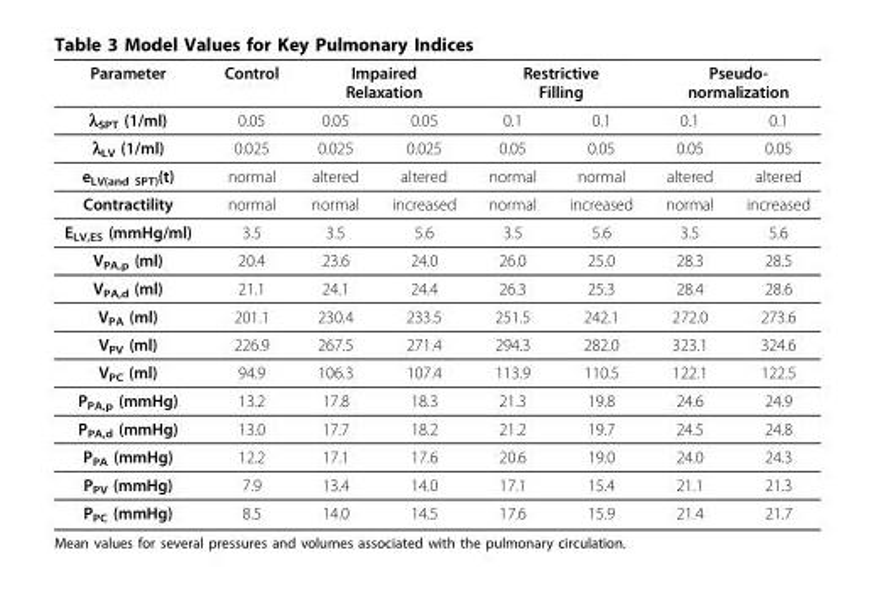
<table><thead><tr><td rowspan="2">Parameter λSPT (1/ml)</td><td rowspan="2">Control 0.05</td><td colspan="2">Impaired Relaxation</td><td colspan="2">Restrictive Filling</td><td colspan="2">Pseudo- normalization</td></tr><tr><td>0.05</td><td>0.05</td><td>0.1</td><td>0.1</td><td>0.1</td><td>0.1</td></tr></thead><tbody><tr><td>λLV (1/ml)</td><td>0.025</td><td>0.025</td><td>0.025</td><td>0.05</td><td>0.05</td><td>0.05</td><td>0.05</td></tr><tr><td>eLV(and SPT)(t)</td><td>normal</td><td>altered</td><td>altered</td><td>normal</td><td>normal</td><td>altered</td><td>altered</td></tr><tr><td>Contractility</td><td>normal</td><td>normal</td><td>increased</td><td>normal</td><td>increased</td><td>normal</td><td>increased</td></tr><tr><td>ELV,ES (mmHg/ml)</td><td>3.5</td><td>3.5</td><td>5.6</td><td>3.5</td><td>5.6</td><td>3.5</td><td>5.6</td></tr><tr><td>VPA,p (ml)</td><td>20.4</td><td>23.6</td><td>24.0</td><td>26.0</td><td>25.0</td><td>28.3</td><td>28.5</td></tr><tr><td>VPA,d (ml)</td><td>21.1</td><td>24.1</td><td>24.4</td><td>26.3</td><td>25.3</td><td>28.4</td><td>28.6</td></tr><tr><td>VPA (ml)</td><td>201.1</td><td>230.4</td><td>233.5</td><td>251.5</td><td>242.1</td><td>272.0</td><td>273.6</td></tr><tr><td>VPV (ml)</td><td>226.9</td><td>267.5</td><td>271.4</td><td>294.3</td><td>282.0</td><td>323.1</td><td>324.6</td></tr><tr><td>VPC (ml)</td><td>94.9</td><td>106.3</td><td>107.4</td><td>113.9</td><td>110.5</td><td>122.1</td><td>122.5</td></tr><tr><td>PPA,p (mmHg)</td><td>13.2</td><td>17.8</td><td>18.3</td><td>21.3</td><td>19.8</td><td>24.6</td><td>24.9</td></tr><tr><td>PPA,d (mmHg)</td><td>13.0</td><td>17.7</td><td>18.2</td><td>21.2</td><td>19.7</td><td>24.5</td><td>24.8</td></tr><tr><td>PPA (mmHg)</td><td>12.2</td><td>17.1</td><td>17.6</td><td>20.6</td><td>19.0</td><td>24.0</td><td>24.3</td></tr><tr><td>PPV (mmHg)</td><td>7.9</td><td>13.4</td><td>14.0</td><td>17.1</td><td>15.4</td><td>21.1</td><td>21.3</td></tr><tr><td>PPC (mmHg)</td><td>8.5</td><td>14.0</td><td>14.5</td><td>17.6</td><td>15.9</td><td>21.4</td><td>21.7</td></tr></tbody></table>